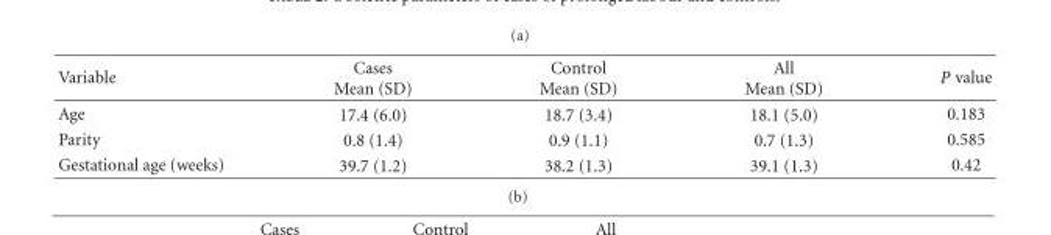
<table><thead><tr><td>Variable</td><td>Cases Mean (SD)</td><td>Control Mean (SD)</td><td>All Mean (SD)</td><td>P value</td></tr></thead><tbody><tr><td>Age</td><td>17.4 (6.0)</td><td>18.7 (3.4)</td><td>18.1 (5.0)</td><td>0.183</td></tr><tr><td>Parity</td><td>0.8 (1.4)</td><td>0.9 (1.1)</td><td>0.7 (1.3)</td><td>0.585</td></tr><tr><td>Gestational age (weeks)</td><td>39.7 (1.2)</td><td>38.2 (1.3)</td><td>39.1 (1.3)</td><td>0.42</td></tr></tbody></table>